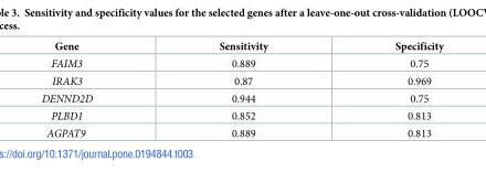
<table><thead><tr><td>Gene</td><td>Sensitivity</td><td>Specificity</td></tr></thead><tbody><tr><td>FAIM3</td><td>0.889</td><td>0.75</td></tr><tr><td>IRAK3</td><td>0.87</td><td>0.969</td></tr><tr><td>DENND2D</td><td>0.944</td><td>0.75</td></tr><tr><td>PLBD1</td><td>0.852</td><td>0.813</td></tr><tr><td>AGPAT9</td><td>0.889</td><td>0.813</td></tr></tbody></table>